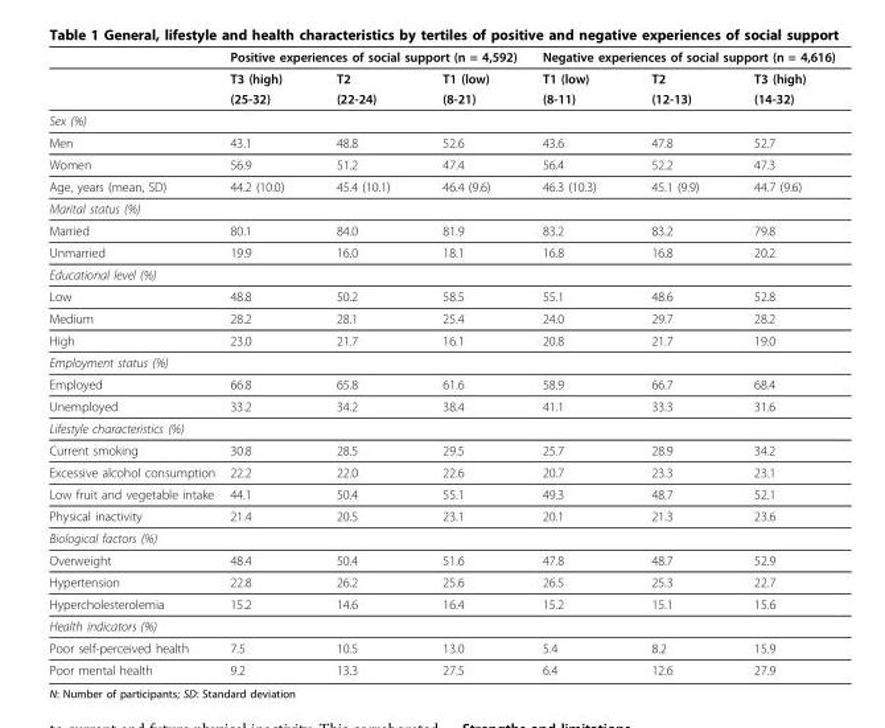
<table><thead><tr><td rowspan="2"></td><td colspan="3">Positive experiences of social support (n = 4,592)</td><td colspan="3">Negative experiences of social support (n = 4,616)</td></tr><tr><td>T3 (high)</td><td>T2</td><td>T1 (low)</td><td>T1 (low)</td><td>T2</td><td>T3 (high)</td></tr></thead><tbody><tr><td></td><td>(25-32)</td><td>(22-24)</td><td>(8-21)</td><td>(8-11)</td><td>(12-13)</td><td>(14-32)</td></tr><tr><td colspan="7">Sex (%)</td></tr><tr><td>Men</td><td>43.1</td><td>48.8</td><td>52.6</td><td>43.6</td><td>47.8</td><td>52.7</td></tr><tr><td>Women</td><td>56.9</td><td>51.2</td><td>47.4</td><td>56.4</td><td>52.2</td><td>47.3</td></tr><tr><td>Age, years (mean, SD)</td><td>44.2 (10.0)</td><td>45.4 (10.1)</td><td>46.4 (9.6)</td><td>46.3 (10.3)</td><td>45.1 (9.9)</td><td>44.7 (9.6)</td></tr><tr><td colspan="7">Marital status (%)</td></tr><tr><td>Married</td><td>80.1</td><td>84.0</td><td>81.9</td><td>83.2</td><td>83.2</td><td>79.8</td></tr><tr><td>Unmarried</td><td>19.9</td><td>16.0</td><td>18.1</td><td>16.8</td><td>16.8</td><td>20.2</td></tr><tr><td colspan="7">Educational level (%)</td></tr><tr><td>Low</td><td>48.8</td><td>50.2</td><td>58.5</td><td>55.1</td><td>48.6</td><td>52.8</td></tr><tr><td>Medium</td><td>28.2</td><td>28.1</td><td>25.4</td><td>24.0</td><td>29.7</td><td>28.2</td></tr><tr><td>High</td><td>23.0</td><td>21.7</td><td>16.1</td><td>20.8</td><td>21.7</td><td>19.0</td></tr><tr><td colspan="7">Employment status (%)</td></tr><tr><td>Employed</td><td>66.8</td><td>65.8</td><td>61.6</td><td>58.9</td><td>66.7</td><td>68.4</td></tr><tr><td>Unemployed</td><td>33.2</td><td>34.2</td><td>38.4</td><td>41.1</td><td>33.3</td><td>31.6</td></tr><tr><td colspan="7">Lifestyle characteristics (%)</td></tr><tr><td>Current smoking</td><td>30.8</td><td>28.5</td><td>29.5</td><td>25.7</td><td>28.9</td><td>34.2</td></tr><tr><td>Excessive alcohol consumption</td><td>22.2</td><td>22.0</td><td>22.6</td><td>20.7</td><td>23.3</td><td>23.1</td></tr><tr><td>Low fruit and vegetable intake</td><td>44.1</td><td>50.4</td><td>55.1</td><td>49.3</td><td>48.7</td><td>52.1</td></tr><tr><td>Physical inactivity</td><td>21.4</td><td>20.5</td><td>23.1</td><td>20.1</td><td>21.3</td><td>23.6</td></tr><tr><td colspan="7">Biological factors (%)</td></tr><tr><td>Overweight</td><td>48.4</td><td>50.4</td><td>51.6</td><td>47.8</td><td>48.7</td><td>52.9</td></tr><tr><td>Hypertension</td><td>22.8</td><td>26.2</td><td>25.6</td><td>26.5</td><td>25.3</td><td>22.7</td></tr><tr><td>Hypercholesterolemia</td><td>15.2</td><td>14.6</td><td>16.4</td><td>15.2</td><td>15.1</td><td>15.6</td></tr><tr><td colspan="7">Health indicators (%)</td></tr><tr><td>Poor self-perceived health</td><td>7.5</td><td>10.5</td><td>13.0</td><td>5.4</td><td>8.2</td><td>15.9</td></tr><tr><td>Poor mental health</td><td>9.2</td><td>13.3</td><td>27.5</td><td>6.4</td><td>12.6</td><td>27.9</td></tr></tbody></table>